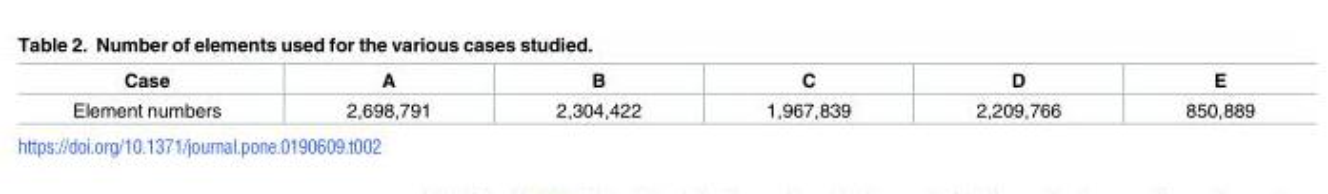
<table><thead><tr><td>Case</td><td>A</td><td>B</td><td>C</td><td>D</td><td>E</td></tr></thead><tbody><tr><td>Element numbers</td><td>2,698,791</td><td>2,304,422</td><td>1,967,839</td><td>2,209,766</td><td>850,889</td></tr></tbody></table>